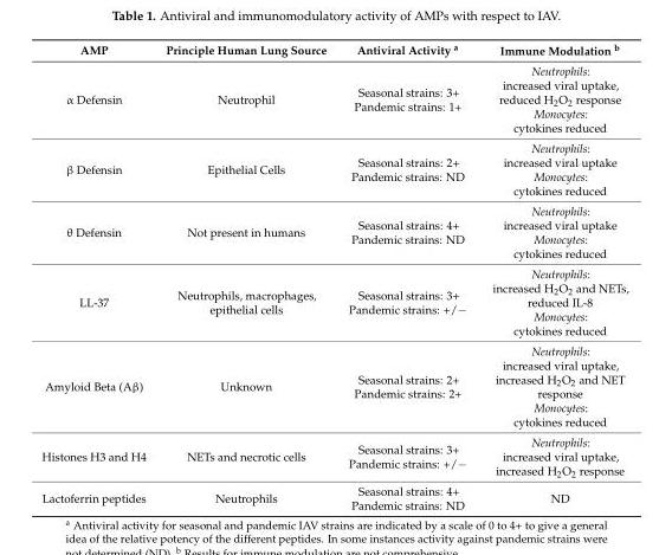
<table><thead><tr><td>AMP</td><td>Principle Human Lung Source</td><td>Antiviral Activity <sup>a</sup></td><td>Immune Modulation <sup>b</sup></td></tr></thead><tbody><tr><td>α Defensin</td><td>Neutrophil</td><td>Seasonal strains: 3+ Pandemic strains: 1+</td><td>Neutrophils: increased viral uptake, reduced H<sub>2</sub>O<sub>2</sub> response Monocytes: cytokines reduced</td></tr><tr><td>β Defensin</td><td>Epithelial Cells</td><td>Seasonal strains: 2+ Pandemic strains: ND</td><td>Neutrophils: increased viral uptake Monocytes: cytokines reduced</td></tr><tr><td>θ Defensin</td><td>Not present in humans</td><td>Seasonal strains: 4+ Pandemic strains: ND</td><td>Neutrophils: increased viral uptake Monocytes: cytokines reduced</td></tr><tr><td>LL-37</td><td>Neutrophils, macrophages, epithelial cells</td><td>Seasonal strains: 3+ Pandemic strains: +/−</td><td>Neutrophils: increased H<sub>2</sub>O<sub>2</sub> and NETs, reduced IL-8 Monocytes: cytokines reduced</td></tr><tr><td>Amyloid Beta (Aβ)</td><td>Unknown</td><td>Seasonal strains: 2+ Pandemic strains: 2+</td><td>Neutrophils: increased viral uptake, increased H<sub>2</sub>O<sub>2</sub> and NET response Monocytes: cytokines reduced</td></tr><tr><td>Histones H3 and H4</td><td>NETs and necrotic cells</td><td>Seasonal strains: 3+ Pandemic strains: +/−</td><td>Neutrophils: increased viral uptake, increased H<sub>2</sub>O<sub>2</sub> response</td></tr><tr><td>Lactoferrin peptides</td><td>Neutrophils</td><td>Seasonal strains: 4+ Pandemic strains: ND</td><td>ND</td></tr></tbody></table>